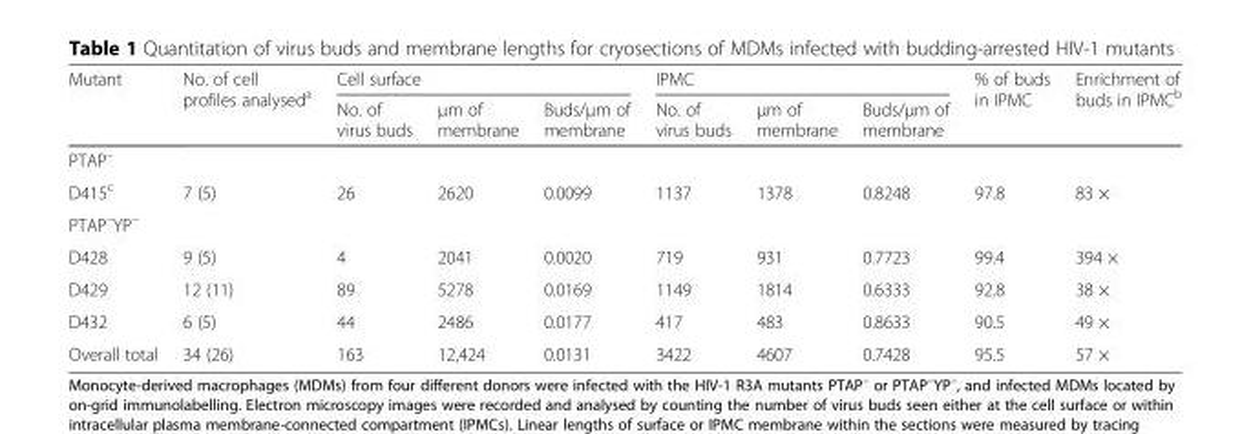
<table><thead><tr><td rowspan="2">Mutant</td><td rowspan="2">No. of cell profiles analysed<sup>a</sup></td><td colspan="3">Cell surface</td><td colspan="3">IPMC</td><td rowspan="2">% of buds in IPMC</td><td rowspan="2">Enrichment of buds in IPMC<sup>b</sup></td></tr><tr><td>No. of virus buds</td><td>μm of membrane</td><td>Buds/μm of membrane</td><td>No. of virus buds</td><td>μm of membrane</td><td>Buds/μm of membrane</td></tr></thead><tbody><tr><td colspan="10">PTAP<sup>–</sup></td></tr><tr><td>D415<sup>c</sup></td><td>7 (5)</td><td>26</td><td>2620</td><td>0.0099</td><td>1137</td><td>1378</td><td>0.8248</td><td>97.8</td><td>83 ×</td></tr><tr><td colspan="10">PTAP<sup>–</sup>YP<sup>–</sup></td></tr><tr><td>D428</td><td>9 (5)</td><td>4</td><td>2041</td><td>0.0020</td><td>719</td><td>931</td><td>0.7723</td><td>99.4</td><td>394 ×</td></tr><tr><td>D429</td><td>12 (11)</td><td>89</td><td>5278</td><td>0.0169</td><td>1149</td><td>1814</td><td>0.6333</td><td>92.8</td><td>38 ×</td></tr><tr><td>D432</td><td>6 (5)</td><td>44</td><td>2486</td><td>0.0177</td><td>417</td><td>483</td><td>0.8633</td><td>90.5</td><td>49 ×</td></tr><tr><td>Overall total</td><td>34 (26)</td><td>163</td><td>12,424</td><td>0.0131</td><td>3422</td><td>4607</td><td>0.7428</td><td>95.5</td><td>57 ×</td></tr></tbody></table>